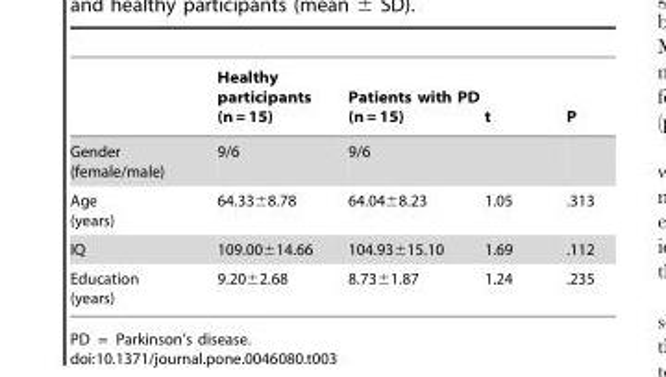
<table><thead><tr><td></td><td>Healthy participants (n = 15)</td><td>Patients with PD (n = 15)</td><td>t</td><td>P</td></tr></thead><tbody><tr><td>Gender (female/male)</td><td>9/6</td><td>9/6</td><td></td><td></td></tr><tr><td>Age (years)</td><td>64.33±8.78</td><td>64.04±8.23</td><td>1.05</td><td>.313</td></tr><tr><td>IQ</td><td>109.00±14.66</td><td>104.93±15.10</td><td>1.69</td><td>.112</td></tr><tr><td>Education (years)</td><td>9.20±2.68</td><td>8.73±1.87</td><td>1.24</td><td>.235</td></tr></tbody></table>